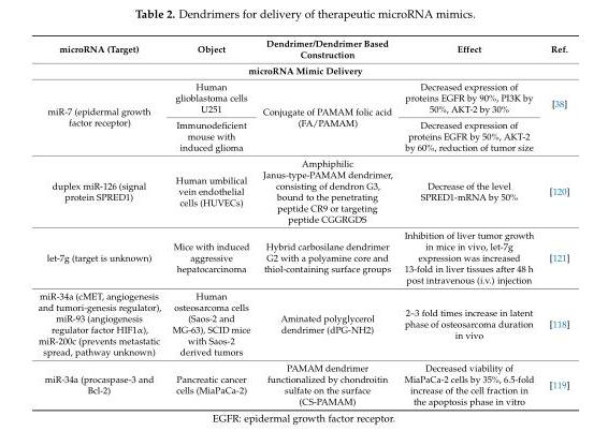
<table><thead><tr><td>microRNA (Target)</td><td>Object</td><td>Dendrimer/Dendrimer Based Construction</td><td>Effect</td><td>Ref.</td></tr></thead><tbody><tr><td colspan="5">microRNA Mimic Delivery</td></tr><tr><td rowspan="2">miR-7 (epidermal growth factor receptor)</td><td>Human glioblastoma cells U251</td><td rowspan="2">Conjugate of PAMAM folic acid (FA/PAMAM)</td><td>Decreased expression of proteins EGFR by 90%, PI3K by 50%, AKT-2 by 30%</td><td rowspan="2">[38]</td></tr><tr><td>Immunodeficient mouse with induced glioma</td><td>Decreased expression of proteins EGFR by 50%, AKT-2 by 60%, reduction of tumor size</td></tr><tr><td>duplex miR-126 (signal protein SPRED1)</td><td>Human umbilical vein endothelial cells (HUVECs)</td><td>Amphiphilic Janus-type-PAMAM dendrimer, consisting of dendron G3, bound to the penetrating peptide CR9 or targeting peptide CGGRGDS</td><td>Decrease of the level SPRED1-mRNA by 50%</td><td>[120]</td></tr><tr><td>let-7g (target is unknown)</td><td>Mice with induced aggressive hepatocarcinoma</td><td>Hybrid carbosilane dendrimer G2 with a polyamine core and thiol-containing surface groups</td><td>Inhibition of liver tumor growth in mice in vivo, let-7g expression was increased 13-fold in liver tissues after 48 h post intravenous (i.v.) injection</td><td>[121]</td></tr><tr><td>miR-34a (cMET, angiogenesis and tumori-genesis regulator), miR-93 (angiogenesis regulator factor HIF1α), miR-200c (prevents metastatic spread, pathway unknown)</td><td>Human osteosarcoma cells (Saos-2 and MG-63), SCID mice with Saos-2 derived tumors</td><td>Aminated polyglycerol dendrimer (dPG-NH2)</td><td>2–3 fold times increase in latent phase of osteosarcoma duration in vivo</td><td>[118]</td></tr><tr><td>miR-34a (procaspase-3 and Bcl-2)</td><td>Pancreatic cancer cells (MiaPaCa-2)</td><td>PAMAM dendrimer functionalized by chondroitin sulfate on the surface (CS-PAMAM)</td><td>Decreased viability of MiaPaCa-2 cells by 35%, 6.5-fold increase of the cell fraction in the apoptosis phase in vitro</td><td>[119]</td></tr></tbody></table>